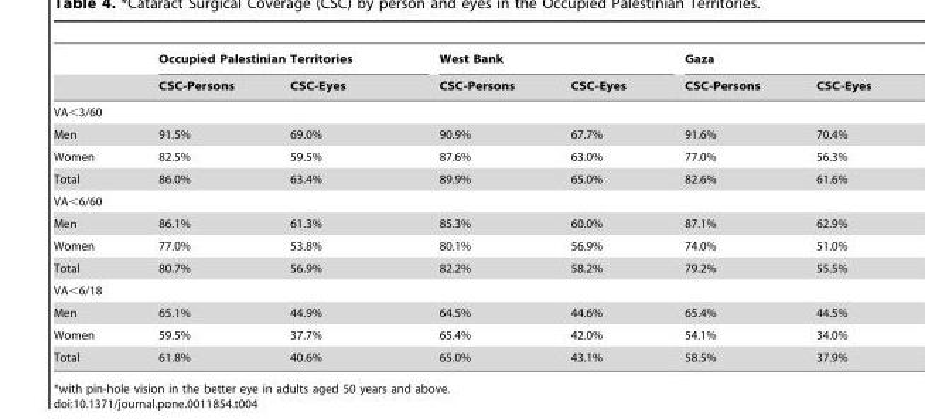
<table><thead><tr><td rowspan="2"></td><td colspan="2">Occupied Palestinian Territories</td><td colspan="2">West Bank</td><td colspan="2">Gaza</td></tr><tr><td>CSC-Persons</td><td>CSC-Eyes</td><td>CSC-Persons</td><td>CSC-Eyes</td><td>CSC-Persons</td><td>CSC-Eyes</td></tr></thead><tbody><tr><td colspan="7">VA&lt;3/60</td></tr><tr><td>Men</td><td>91.5%</td><td>69.0%</td><td>90.9%</td><td>67.7%</td><td>91.6%</td><td>70.4%</td></tr><tr><td>Women</td><td>82.5%</td><td>59.5%</td><td>87.6%</td><td>63.0%</td><td>77.0%</td><td>56.3%</td></tr><tr><td>Total</td><td>86.0%</td><td>63.4%</td><td>89.9%</td><td>65.0%</td><td>82.6%</td><td>61.6%</td></tr><tr><td colspan="7">VA&lt;6/60</td></tr><tr><td>Men</td><td>86.1%</td><td>61.3%</td><td>85.3%</td><td>60.0%</td><td>87.1%</td><td>62.9%</td></tr><tr><td>Women</td><td>77.0%</td><td>53.8%</td><td>80.1%</td><td>56.9%</td><td>74.0%</td><td>51.0%</td></tr><tr><td>Total</td><td>80.7%</td><td>56.9%</td><td>82.2%</td><td>58.2%</td><td>79.2%</td><td>55.5%</td></tr><tr><td colspan="7">VA&lt;6/18</td></tr><tr><td>Men</td><td>65.1%</td><td>44.9%</td><td>64.5%</td><td>44.6%</td><td>65.4%</td><td>44.5%</td></tr><tr><td>Women</td><td>59.5%</td><td>37.7%</td><td>65.4%</td><td>42.0%</td><td>54.1%</td><td>34.0%</td></tr><tr><td>Total</td><td>61.8%</td><td>40.6%</td><td>65.0%</td><td>43.1%</td><td>58.5%</td><td>37.9%</td></tr></tbody></table>